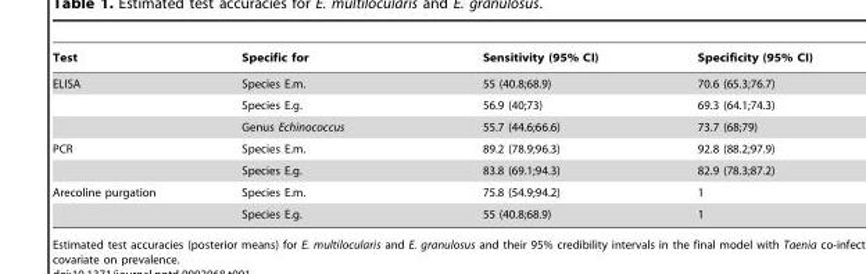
<table><thead><tr><td>Test</td><td>Specific for</td><td>Sensitivity (95% CI)</td><td>Specificity (95% CI)</td></tr></thead><tbody><tr><td rowspan="3">ELISA</td><td>Species E.m.</td><td>55 (40.8;68.9)</td><td>70.6 (65.3;76.7)</td></tr><tr><td>Species E.g.</td><td>56.9 (40;73)</td><td>69.3 (64.1;74.3)</td></tr><tr><td>Genus Echinococcus</td><td>55.7 (44.6;66.6)</td><td>73.7 (68;79)</td></tr><tr><td rowspan="2">PCR</td><td>Species E.m.</td><td>89.2 (78.9;96.3)</td><td>92.8 (88.2;97.9)</td></tr><tr><td>Species E.g.</td><td>83.8 (69.1;94.3)</td><td>82.9 (78.3;87.2)</td></tr><tr><td rowspan="2">Arecoline purgation</td><td>Species E.m.</td><td>75.8 (54.9;94.2)</td><td>1</td></tr><tr><td>Species E.g.</td><td>55 (40.8;68.9)</td><td>1</td></tr></tbody></table>